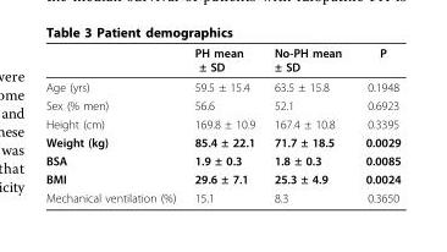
<table><thead><tr><td></td><td>PH mean ± SD</td><td>No-PH mean ± SD</td><td>P</td></tr></thead><tbody><tr><td>Age (yrs)</td><td>59.5 ± 15.4</td><td>63.5 ± 15.8</td><td>0.1948</td></tr><tr><td>Sex (% men)</td><td>56.6</td><td>52.1</td><td>0.6923</td></tr><tr><td>Height (cm)</td><td>169.8 ± 10.9</td><td>167.4 ± 10.8</td><td>0.3395</td></tr><tr><td>Weight (kg)</td><td>85.4 ± 22.1</td><td>71.7 ± 18.5</td><td>0.0029</td></tr><tr><td>BSA</td><td>1.9 ± 0.3</td><td>1.8 ± 0.3</td><td>0.0085</td></tr><tr><td>BMI</td><td>29.6 ± 7.1</td><td>25.3 ± 4.9</td><td>0.0024</td></tr><tr><td>Mechanical ventilation (%)</td><td>15.1</td><td>8.3</td><td>0.3650</td></tr></tbody></table>